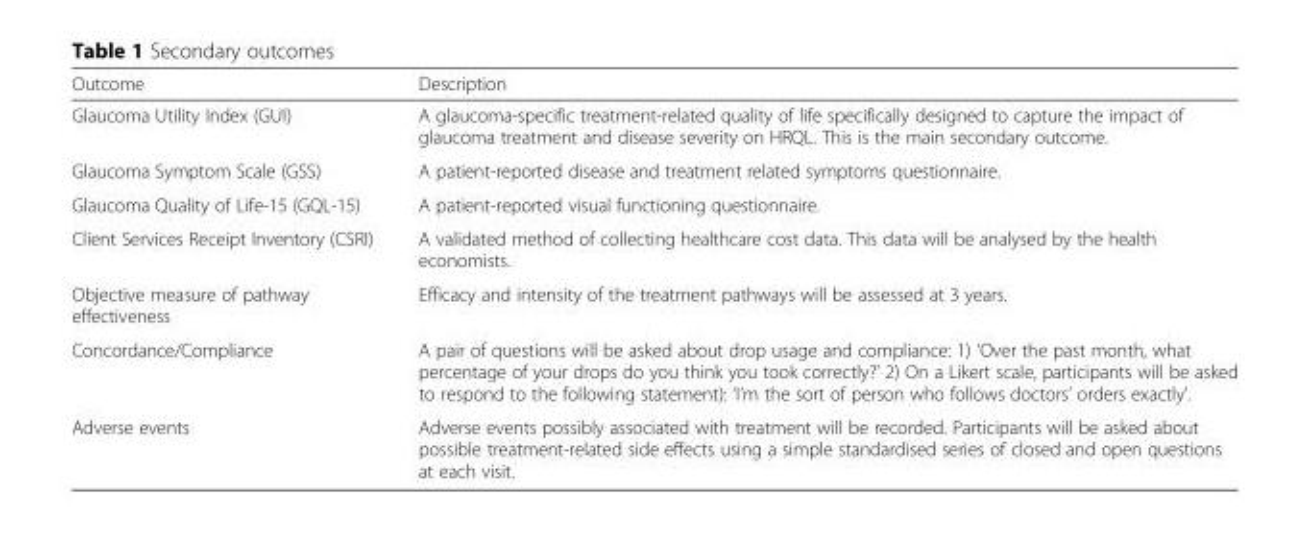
<table><thead><tr><td>Outcome</td><td>Description</td></tr></thead><tbody><tr><td>Glaucoma Utility Index (GUI)</td><td>A glaucoma-specific treatment-related quality of life specifically designed to capture the impact of glaucoma treatment and disease severity on HRQL. This is the main secondary outcome.</td></tr><tr><td>Glaucoma Symptom Scale (GSS)</td><td>A patient-reported disease and treatment related symptoms questionnaire.</td></tr><tr><td>Glaucoma Quality of Life-15 (GQL-15)</td><td>A patient-reported visual functioning questionnaire.</td></tr><tr><td>Client Services Receipt Inventory (CSRI)</td><td>A validated method of collecting healthcare cost data. This data will be analysed by the health economists.</td></tr><tr><td>Objective measure of pathway effectiveness</td><td>Efficacy and intensity of the treatment pathways will be assessed at 3 years.</td></tr><tr><td>Concordance/Compliance</td><td>A pair of questions will be asked about drop usage and compliance: 1) ‘Over the past month, what percentage of your drops do you think you took correctly?’ 2) On a Likert scale, participants will be asked to respond to the following statement): ‘I’m the sort of person who follows doctors’ orders exactly’.</td></tr><tr><td>Adverse events</td><td>Adverse events possibly associated with treatment will be recorded. Participants will be asked about possible treatment-related side effects using a simple standardised series of closed and open questions at each visit.</td></tr></tbody></table>